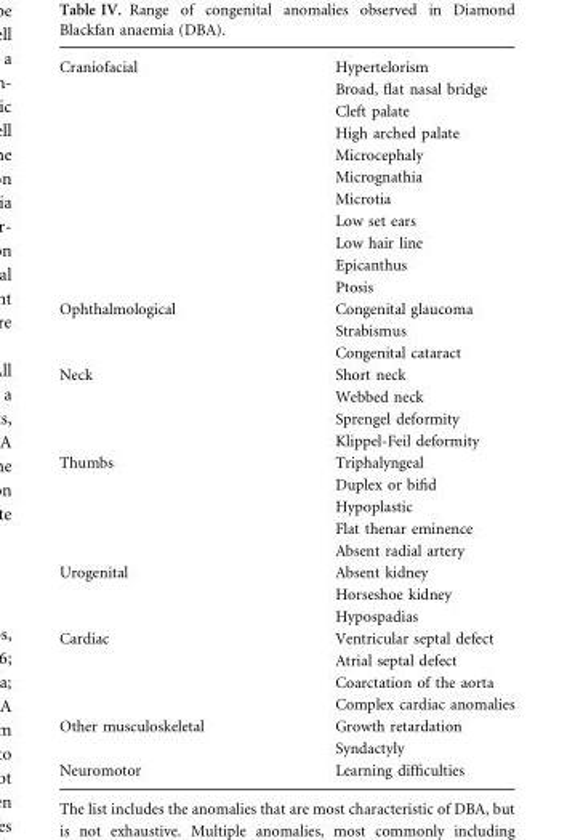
<table><tbody><tr><td rowspan="11">Craniofacial</td><td>Hypertelorism</td></tr><tr><td>Broad, flat nasal bridge</td></tr><tr><td>Cleft palate</td></tr><tr><td>High arched palate</td></tr><tr><td>Microcephaly</td></tr><tr><td>Micrognathia</td></tr><tr><td>Microtia</td></tr><tr><td>Low set ears</td></tr><tr><td>Low hair line</td></tr><tr><td>Epicanthus</td></tr><tr><td>Ptosis</td></tr><tr><td rowspan="3">Ophthalmological</td><td>Congenital glaucoma</td></tr><tr><td>Strabismus</td></tr><tr><td>Congenital cataract</td></tr><tr><td rowspan="4">Neck</td><td>Short neck</td></tr><tr><td>Webbed neck</td></tr><tr><td>Sprengel deformity</td></tr><tr><td>Klippel-Feil deformity</td></tr><tr><td rowspan="5">Thumbs</td><td>Triphalyngeal</td></tr><tr><td>Duplex or bifid</td></tr><tr><td>Hypoplastic</td></tr><tr><td>Flat thenar eminence</td></tr><tr><td>Absent radial artery</td></tr><tr><td rowspan="3">Urogenital</td><td>Absent kidney</td></tr><tr><td>Horseshoe kidney</td></tr><tr><td>Hypospadias</td></tr><tr><td rowspan="4">Cardiac</td><td>Ventricular septal defect</td></tr><tr><td>Atrial septal defect</td></tr><tr><td>Coarctation of the aorta</td></tr><tr><td>Complex cardiac anomalies</td></tr><tr><td rowspan="2">Other musculoskeletal</td><td>Growth retardation</td></tr><tr><td>Syndactyly</td></tr><tr><td>Neuromotor</td><td>Learning difficulties</td></tr></tbody></table>